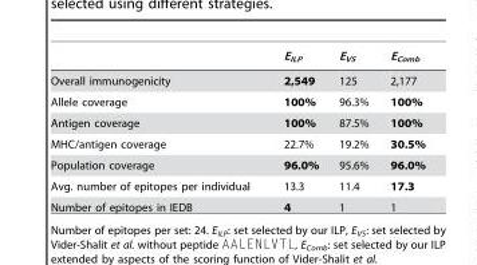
<table><thead><tr><td></td><td>E<sub>ILP</sub></td><td>E<sub>VS</sub></td><td>E<sub>Comb</sub></td></tr></thead><tbody><tr><td>Overall immunogenicity</td><td>2,549</td><td>125</td><td>2,177</td></tr><tr><td>Allele coverage</td><td>100%</td><td>96.3%</td><td>100%</td></tr><tr><td>Antigen coverage</td><td>100%</td><td>87.5%</td><td>100%</td></tr><tr><td>MHC/antigen coverage</td><td>22.7%</td><td>19.2%</td><td>30.5%</td></tr><tr><td>Population coverage</td><td>96.0%</td><td>95.6%</td><td>96.0%</td></tr><tr><td>Avg. number of epitopes per individual</td><td>13.3</td><td>11.4</td><td>17.3</td></tr><tr><td>Number of epitopes in IEDB</td><td>4</td><td>1</td><td>1</td></tr></tbody></table>